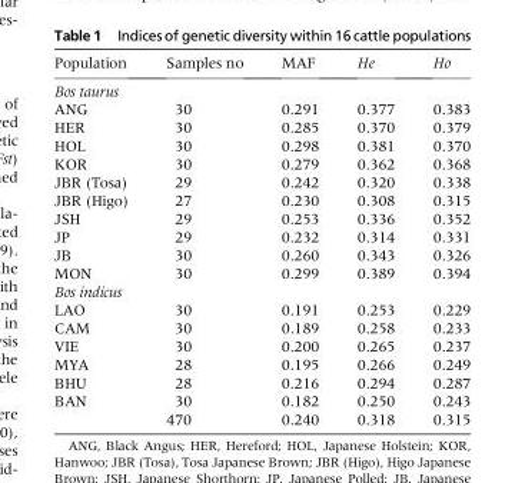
<table><thead><tr><td>Population</td><td>Samples no</td><td>MAF</td><td>He</td><td>Ho</td></tr></thead><tbody><tr><td colspan="5">Bos taurus</td></tr><tr><td>ANG</td><td>30</td><td>0.291</td><td>0.377</td><td>0.383</td></tr><tr><td>HER</td><td>30</td><td>0.285</td><td>0.370</td><td>0.379</td></tr><tr><td>HOL</td><td>30</td><td>0.298</td><td>0.381</td><td>0.370</td></tr><tr><td>KOR</td><td>30</td><td>0.279</td><td>0.362</td><td>0.368</td></tr><tr><td>JBR (Tosa)</td><td>29</td><td>0.242</td><td>0.320</td><td>0.338</td></tr><tr><td>JBR (Higo)</td><td>27</td><td>0.230</td><td>0.308</td><td>0.315</td></tr><tr><td>JSH</td><td>29</td><td>0.253</td><td>0.336</td><td>0.352</td></tr><tr><td>JP</td><td>29</td><td>0.232</td><td>0.314</td><td>0.331</td></tr><tr><td>JB</td><td>30</td><td>0.260</td><td>0.343</td><td>0.326</td></tr><tr><td>MON</td><td>30</td><td>0.299</td><td>0.389</td><td>0.394</td></tr><tr><td colspan="5">Bos indicus</td></tr><tr><td>LAO</td><td>30</td><td>0.191</td><td>0.253</td><td>0.229</td></tr><tr><td>CAM</td><td>30</td><td>0.189</td><td>0.258</td><td>0.233</td></tr><tr><td>VIE</td><td>30</td><td>0.200</td><td>0.265</td><td>0.237</td></tr><tr><td>MYA</td><td>28</td><td>0.195</td><td>0.266</td><td>0.249</td></tr><tr><td>BHU</td><td>28</td><td>0.216</td><td>0.294</td><td>0.287</td></tr><tr><td rowspan="2">BAN</td><td>30</td><td>0.182</td><td>0.250</td><td>0.243</td></tr><tr><td>470</td><td>0.240</td><td>0.318</td><td>0.315</td></tr></tbody></table>